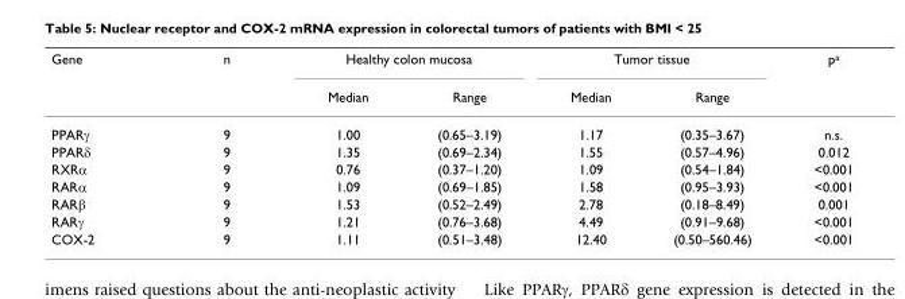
<table><thead><tr><td rowspan="2">Gene</td><td rowspan="2">n</td><td colspan="2">Healthy colon mucosa</td><td colspan="2">Tumor tissue</td><td rowspan="2">p<sup>a</sup></td></tr><tr><td>Median</td><td>Range</td><td>Median</td><td>Range</td></tr></thead><tbody><tr><td>PPARγ</td><td>9</td><td>1.00</td><td>(0.65–3.19)</td><td>1.17</td><td>(0.35–3.67)</td><td>n.s.</td></tr><tr><td>PPARδ</td><td>9</td><td>1.35</td><td>(0.69–2.34)</td><td>1.55</td><td>(0.57–4.96)</td><td>0.012</td></tr><tr><td>RXRα</td><td>9</td><td>0.76</td><td>(0.37–1.20)</td><td>1.09</td><td>(0.54–1.84)</td><td>&lt;0.001</td></tr><tr><td>RARα</td><td>9</td><td>1.09</td><td>(0.69–1.85)</td><td>1.58</td><td>(0.95–3.93)</td><td>&lt;0.001</td></tr><tr><td>RARβ</td><td>9</td><td>1.53</td><td>(0.52–2.49)</td><td>2.78</td><td>(0.18–8.49)</td><td>0.001</td></tr><tr><td>RARγ</td><td>9</td><td>1.21</td><td>(0.76–3.68)</td><td>4.49</td><td>(0.91–9.68)</td><td>&lt;0.001</td></tr><tr><td>COX-2</td><td>9</td><td>1.11</td><td>(0.51–3.48)</td><td>12.40</td><td>(0.50–560.46)</td><td>&lt;0.001</td></tr></tbody></table>